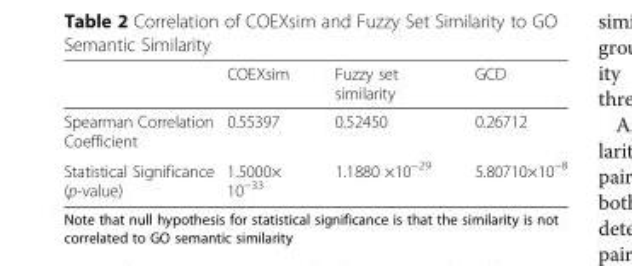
<table><thead><tr><td></td><td>COEXsim</td><td>Fuzzy set similarity</td><td>GCD</td></tr></thead><tbody><tr><td>Spearman Correlation Coefficient</td><td>0.55397</td><td>0.52450</td><td>0.26712</td></tr><tr><td>Statistical Significance (p-value)</td><td>1.5000× 10<sup>−33</sup></td><td>1.1880 ×10<sup>−29</sup></td><td>5.80710×10<sup>−8</sup></td></tr></tbody></table>